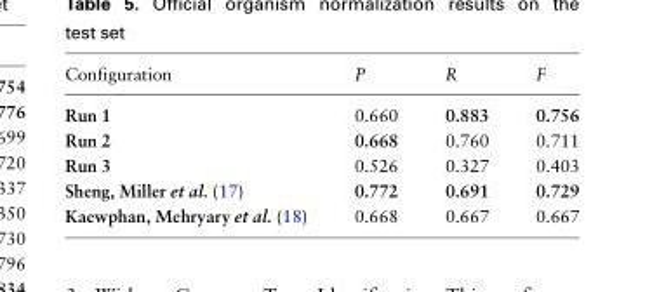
<table><thead><tr><td>Configuration</td><td>P</td><td>R</td><td>F</td></tr></thead><tbody><tr><td>Run 1</td><td>0.660</td><td>0.883</td><td>0.756</td></tr><tr><td>Run 2</td><td>0.668</td><td>0.760</td><td>0.711</td></tr><tr><td>Run 3</td><td>0.526</td><td>0.327</td><td>0.403</td></tr><tr><td>Sheng, Miller et al. (17)</td><td>0.772</td><td>0.691</td><td>0.729</td></tr><tr><td>Kaewphan, Mehryary et al. (18)</td><td>0.668</td><td>0.667</td><td>0.667</td></tr></tbody></table>